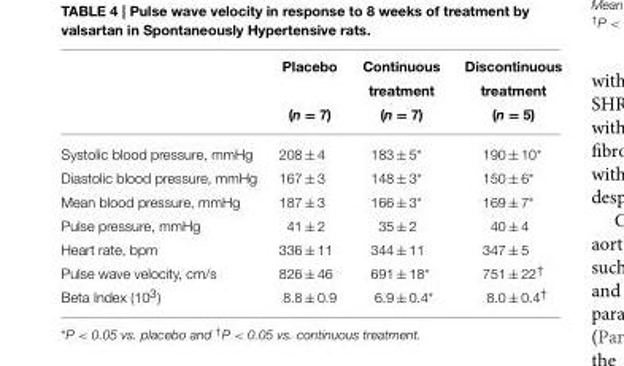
<table><thead><tr><td></td><td>Placebo (n = 7)</td><td>Continuous treatment (n = 7)</td><td>Discontinuous treatment (n = 5)</td></tr></thead><tbody><tr><td>Systolic blood pressure, mmHg</td><td>208 ± 4</td><td>183 ± 5*</td><td>190 ± 10*</td></tr><tr><td>Diastolic blood pressure, mmHg</td><td>167 ± 3</td><td>148 ± 3*</td><td>150 ± 6*</td></tr><tr><td>Mean blood pressure, mmHg</td><td>187 ± 3</td><td>166 ± 3*</td><td>169 ± 7*</td></tr><tr><td>Pulse pressure, mmHg</td><td>41 ± 2</td><td>35 ± 2</td><td>40 ± 4</td></tr><tr><td>Heart rate, bpm</td><td>336 ± 11</td><td>344 ± 11</td><td>347 ± 5</td></tr><tr><td>Pulse wave velocity, cm/s</td><td>826 ± 46</td><td>691 ± 18*</td><td>751 ± 22<sup>†</sup></td></tr><tr><td>Beta Index (10<sup>3</sup>)</td><td>8.8 ± 0.9</td><td>6.9 ± 0.4*</td><td>8.0 ± 0.4<sup>†</sup></td></tr></tbody></table>